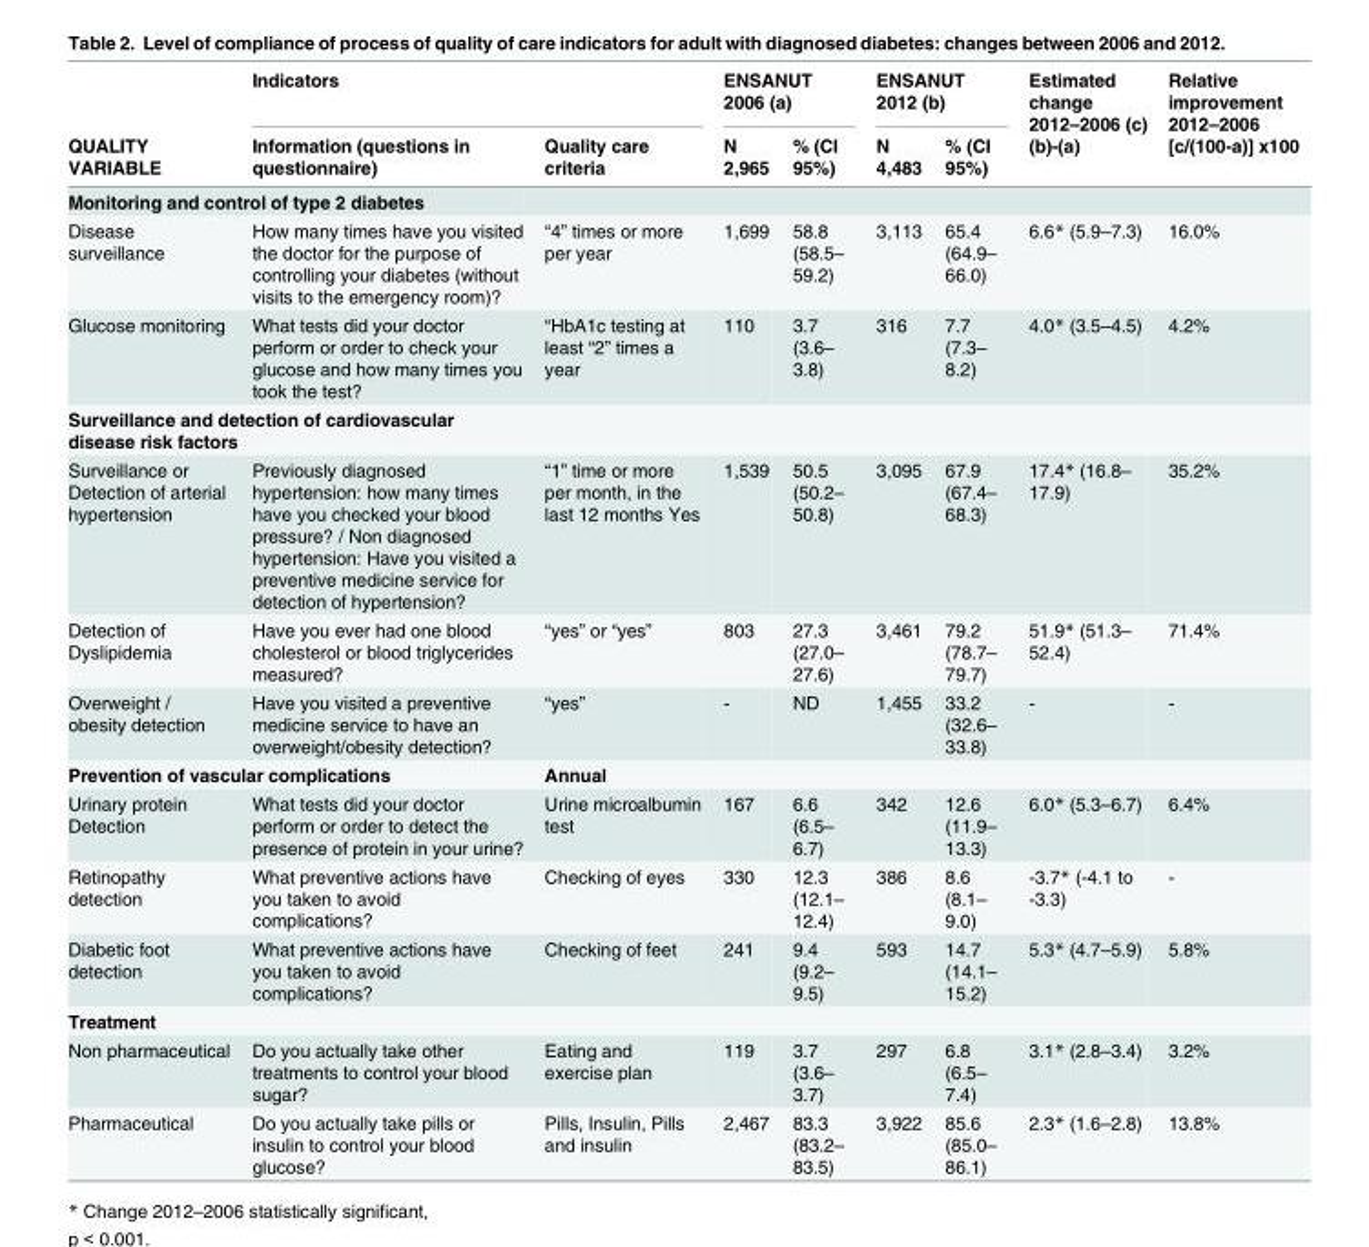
<table><thead><tr><td rowspan="2">QUALITY VARIABLE</td><td colspan="2">Indicators</td><td colspan="2">ENSANUT 2006 (a)</td><td colspan="2">ENSANUT 2012 (b)</td><td rowspan="2">Estimated change 2012–2006 (c) (b)-(a)</td><td rowspan="2">Relative improvement 2012–2006 [c/(100-a)] x100</td></tr><tr><td>Information (questions in questionnaire)</td><td>Quality care criteria</td><td>N 2,965</td><td>% (CI 95%)</td><td>N 4,483</td><td>% (CI 95%)</td></tr></thead><tbody><tr><td colspan="9">Monitoring and control of type 2 diabetes</td></tr><tr><td>Disease surveillance</td><td>How many times have you visited the doctor for the purpose of controlling your diabetes (without visits to the emergency room)?</td><td>“4” times or more per year</td><td>1,699</td><td>58.8 (58.5– 59.2)</td><td>3,113</td><td>65.4 (64.9– 66.0)</td><td>6.6* (5.9–7.3)</td><td>16.0%</td></tr><tr><td>Glucose monitoring</td><td>What tests did your doctor perform or order to check your glucose and how many times you took the test?</td><td>“HbA1c testing at least “2” times a year</td><td>110</td><td>3.7 (3.6– 3.8)</td><td>316</td><td>7.7 (7.3– 8.2)</td><td>4.0* (3.5–4.5)</td><td>4.2%</td></tr><tr><td colspan="9">Surveillance and detection of cardiovascular disease risk factors</td></tr><tr><td>Surveillance or Detection of arterial hypertension</td><td>Previously diagnosed hypertension: how many times have you checked your blood pressure? / Non diagnosed hypertension: Have you visited a preventive medicine service for detection of hypertension?</td><td>“1” time or more per month, in the last 12 months Yes</td><td>1,539</td><td>50.5 (50.2– 50.8)</td><td>3,095</td><td>67.9 (67.4– 68.3)</td><td>17.4* (16.8– 17.9)</td><td>35.2%</td></tr><tr><td>Detection of Dyslipidemia</td><td>Have you ever had one blood cholesterol or blood triglycerides measured?</td><td>“yes” or “yes”</td><td>803</td><td>27.3 (27.0– 27.6)</td><td>3,461</td><td>79.2 (78.7– 79.7)</td><td>51.9* (51.3– 52.4)</td><td>71.4%</td></tr><tr><td>Overweight / obesity detection</td><td>Have you visited a preventive medicine service to have an overweight/obesity detection?</td><td>“yes”</td><td>-</td><td>ND</td><td>1,455</td><td>33.2 (32.6– 33.8)</td><td>-</td><td>-</td></tr><tr><td colspan="2">Prevention of vascular complications</td><td>Annual</td><td colspan="6"></td></tr><tr><td>Urinary protein Detection</td><td>What tests did your doctor perform or order to detect the presence of protein in your urine?</td><td>Urine microalbumin test</td><td>167</td><td>6.6 (6.5– 6.7)</td><td>342</td><td>12.6 (11.9– 13.3)</td><td>6.0* (5.3–6.7)</td><td>6.4%</td></tr><tr><td>Retinopathy detection</td><td>What preventive actions have you taken to avoid complications?</td><td>Checking of eyes</td><td>330</td><td>12.3 (12.1– 12.4)</td><td>386</td><td>8.6 (8.1– 9.0)</td><td>-3.7* (-4.1 to -3.3)</td><td>-</td></tr><tr><td>Diabetic foot detection</td><td>What preventive actions have you taken to avoid complications?</td><td>Checking of feet</td><td>241</td><td>9.4 (9.2– 9.5)</td><td>593</td><td>14.7 (14.1– 15.2)</td><td>5.3* (4.7–5.9)</td><td>5.8%</td></tr><tr><td colspan="9">Treatment</td></tr><tr><td>Non pharmaceutical</td><td>Do you actually take other treatments to control your blood sugar?</td><td>Eating and exercise plan</td><td>119</td><td>3.7 (3.6– 3.7)</td><td>297</td><td>6.8 (6.5– 7.4)</td><td>3.1* (2.8–3.4)</td><td>3.2%</td></tr><tr><td>Pharmaceutical</td><td>Do you actually take pills or insulin to control your blood glucose?</td><td>Pills, Insulin, Pills and insulin</td><td>2,467</td><td>83.3 (83.2– 83.5)</td><td>3,922</td><td>85.6 (85.0– 86.1)</td><td>2.3* (1.6–2.8)</td><td>13.8%</td></tr></tbody></table>